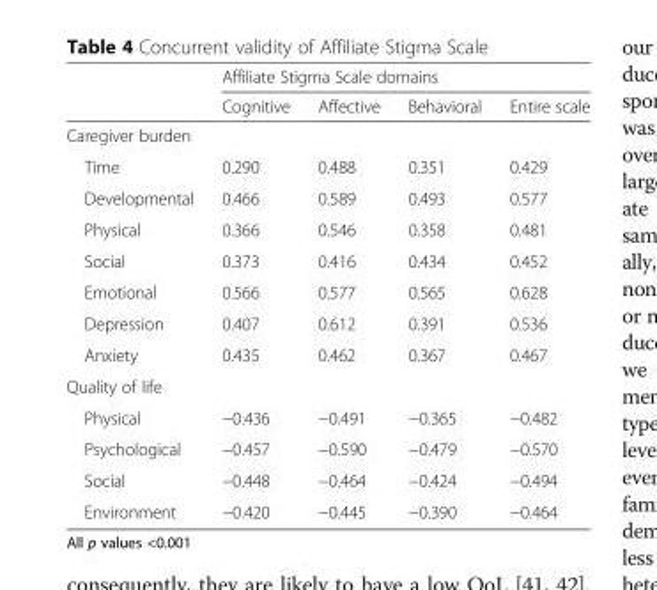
<table><thead><tr><td rowspan="2"></td><td colspan="4">Affiliate Stigma Scale domains</td></tr><tr><td>Cognitive</td><td>Affective</td><td>Behavioral</td><td>Entire scale</td></tr></thead><tbody><tr><td colspan="5">Caregiver burden</td></tr><tr><td>Time</td><td>0.290</td><td>0.488</td><td>0.351</td><td>0.429</td></tr><tr><td>Developmental</td><td>0.466</td><td>0.589</td><td>0.493</td><td>0.577</td></tr><tr><td>Physical</td><td>0.366</td><td>0.546</td><td>0.358</td><td>0.481</td></tr><tr><td>Social</td><td>0.373</td><td>0.416</td><td>0.434</td><td>0.452</td></tr><tr><td>Emotional</td><td>0.566</td><td>0.577</td><td>0.565</td><td>0.628</td></tr><tr><td>Depression</td><td>0.407</td><td>0.612</td><td>0.391</td><td>0.536</td></tr><tr><td>Anxiety</td><td>0.435</td><td>0.462</td><td>0.367</td><td>0.467</td></tr><tr><td colspan="5">Quality of life</td></tr><tr><td>Physical</td><td>−0.436</td><td>−0.491</td><td>−0.365</td><td>−0.482</td></tr><tr><td>Psychological</td><td>−0.457</td><td>−0.590</td><td>−0.479</td><td>−0.570</td></tr><tr><td>Social</td><td>−0.448</td><td>−0.464</td><td>−0.424</td><td>−0.494</td></tr><tr><td>Environment</td><td>−0.420</td><td>−0.445</td><td>−0.390</td><td>−0.464</td></tr></tbody></table>